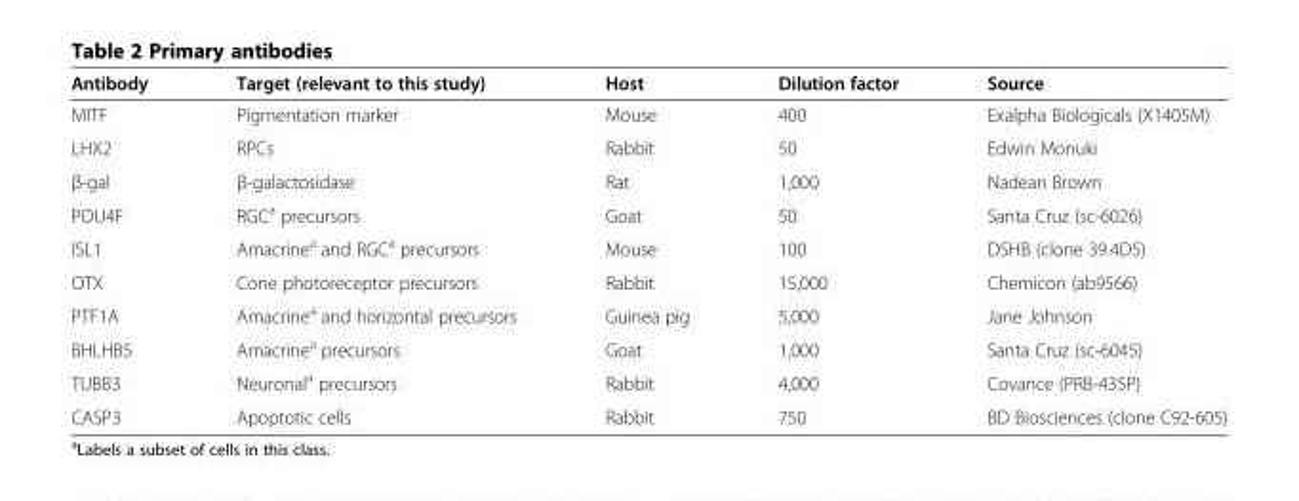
<table><thead><tr><td>Antibody</td><td>Target (relevant to this study)</td><td>Host</td><td>Dilution factor</td><td>Source</td></tr></thead><tbody><tr><td>MITF</td><td>Pigmentation marker</td><td>Mouse</td><td>400</td><td>Exalpha Biologicals (X1405M)</td></tr><tr><td>LHX2</td><td>RPCs</td><td>Rabbit</td><td>50</td><td>Edwin Monuki</td></tr><tr><td>β-gal</td><td>β-galactosidase</td><td>Rat</td><td>1,000</td><td>Nadean Brown</td></tr><tr><td>POU4F</td><td>RGC<sup>a</sup> precursors</td><td>Goat</td><td>50</td><td>Santa Cruz (sc-6026)</td></tr><tr><td>ISL1</td><td>Amacrine<sup>a</sup> and RGC<sup>a</sup> precursors</td><td>Mouse</td><td>100</td><td>DSHB (clone 39.4D5)</td></tr><tr><td>OTX</td><td>Cone photoreceptor precursors</td><td>Rabbit</td><td>15,000</td><td>Chemicon (ab9566)</td></tr><tr><td>PTF1A</td><td>Amacrine<sup>a</sup> and horizontal precursors</td><td>Guinea pig</td><td>5,000</td><td>Jane Johnson</td></tr><tr><td>BHLHB5</td><td>Amacrine<sup>a</sup> precursors</td><td>Goat</td><td>1,000</td><td>Santa Cruz (sc-6045)</td></tr><tr><td>TUBB3</td><td>Neuronal<sup>a</sup> precursors</td><td>Rabbit</td><td>4,000</td><td>Covance (PRB-435P)</td></tr><tr><td>CASP3</td><td>Apoptotic cells</td><td>Rabbit</td><td>750</td><td>BD Biosciences (clone C92-605)</td></tr></tbody></table>